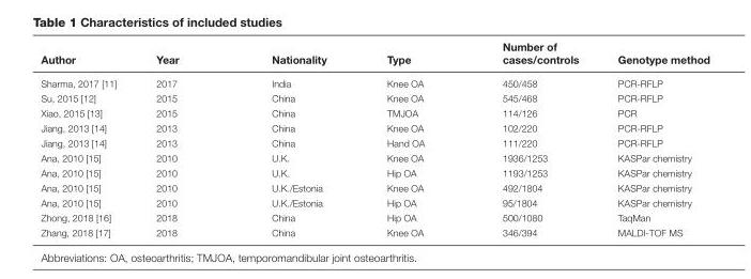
<table><thead><tr><td>Author</td><td>Year</td><td>Nationality</td><td>Type</td><td>Number of cases/controls</td><td>Genotype method</td></tr></thead><tbody><tr><td>Sharma, 2017 [11]</td><td>2017</td><td>India</td><td>Knee OA</td><td>450/458</td><td>PCR-RFLP</td></tr><tr><td>Su, 2015 [12]</td><td>2015</td><td>China</td><td>Knee OA</td><td>545/468</td><td>PCR-RFLP</td></tr><tr><td>Xiao, 2015 [13]</td><td>2015</td><td>China</td><td>TMJOA</td><td>114/126</td><td>PCR</td></tr><tr><td>Jiang, 2013 [14]</td><td>2013</td><td>China</td><td>Knee OA</td><td>102/220</td><td>PCR-RFLP</td></tr><tr><td>Jiang, 2013 [14]</td><td>2013</td><td>China</td><td>Hand OA</td><td>111/220</td><td>PCR-RFLP</td></tr><tr><td>Ana, 2010 [15]</td><td>2010</td><td>U.K.</td><td>Knee OA</td><td>1936/1253</td><td>KASPar chemistry</td></tr><tr><td>Ana, 2010 [15]</td><td>2010</td><td>U.K.</td><td>Hip OA</td><td>1193/1253</td><td>KASPar chemistry</td></tr><tr><td>Ana, 2010 [15]</td><td>2010</td><td>U.K./Estonia</td><td>Knee OA</td><td>492/1804</td><td>KASPar chemistry</td></tr><tr><td>Ana, 2010 [15]</td><td>2010</td><td>U.K./Estonia</td><td>Hip OA</td><td>95/1804</td><td>KASPar chemistry</td></tr><tr><td>Zhong, 2018 [16]</td><td>2018</td><td>China</td><td>Hip OA</td><td>500/1080</td><td>TaqMan</td></tr><tr><td>Zhang, 2018 [17]</td><td>2018</td><td>China</td><td>Knee OA</td><td>346/394</td><td>MALDI-TOF MS</td></tr></tbody></table>